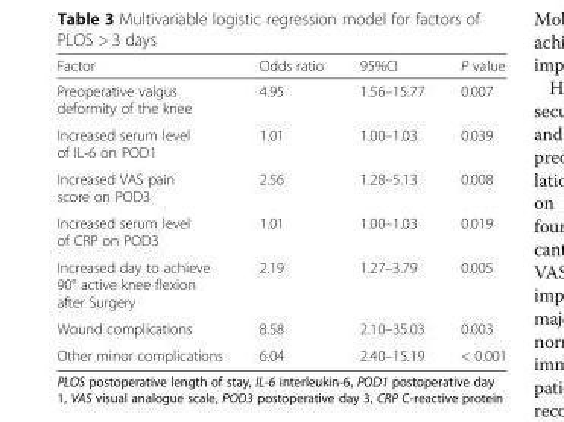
<table><thead><tr><td>Factor</td><td>Odds ratio</td><td>95%CI</td><td>P value</td></tr></thead><tbody><tr><td>Preoperative valgus deformity of the knee</td><td>4.95</td><td>1.56–15.77</td><td>0.007</td></tr><tr><td>Increased serum level of IL-6 on POD1</td><td>1.01</td><td>1.00–1.03</td><td>0.039</td></tr><tr><td>Increased VAS pain score on POD3</td><td>2.56</td><td>1.28–5.13</td><td>0.008</td></tr><tr><td>Increased serum level of CRP on POD3</td><td>1.01</td><td>1.00–1.03</td><td>0.019</td></tr><tr><td>Increased day to achieve 90° active knee flexion after Surgery</td><td>2.19</td><td>1.27–3.79</td><td>0.005</td></tr><tr><td>Wound complications</td><td>8.58</td><td>2.10–35.03</td><td>0.003</td></tr><tr><td>Other minor complications</td><td>6.04</td><td>2.40–15.19</td><td>&lt; 0.001</td></tr></tbody></table>